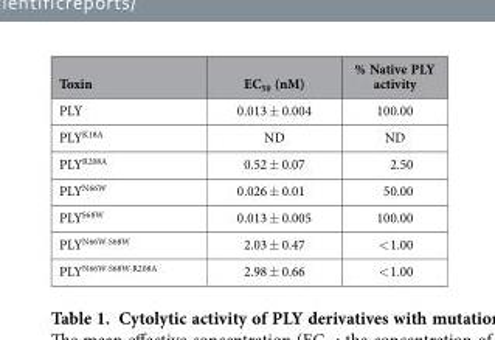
<table><thead><tr><td>Toxin</td><td>EC<sub>50</sub> (nM)</td><td>% Native PLY activity</td></tr></thead><tbody><tr><td>PLY</td><td>0.013 ± 0.004</td><td>100.00</td></tr><tr><td>PLY<sup>K18A</sup></td><td>ND</td><td>ND</td></tr><tr><td>PLY<sup>R208A</sup></td><td>0.52 ± 0.07</td><td>2.50</td></tr><tr><td>PLY<sup>N66W</sup></td><td>0.026 ± 0.01</td><td>50.00</td></tr><tr><td>PLY<sup>S68W</sup></td><td>0.013 ± 0.005</td><td>100.00</td></tr><tr><td>PLY<sup>N66W∙S68W</sup></td><td>2.03 ± 0.47</td><td>&lt; 1.00</td></tr><tr><td>PLY<sup>N66W∙S68W∙R208A</sup></td><td>2.98 ± 0.66</td><td>&lt; 1.00</td></tr></tbody></table>